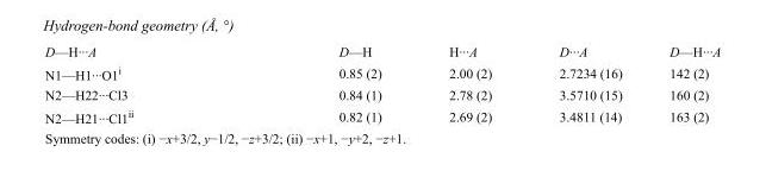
<table><tbody><tr><td>D—H···A</td><td>D—H</td><td>H···A</td><td>D···A</td><td>D—H···A</td></tr><tr><td>N1—H1···O1<sup>i</sup></td><td>0.85 (2)</td><td>2.00 (2)</td><td>2.7234 (16)</td><td>142 (2)</td></tr><tr><td>N2—H22···Cl3</td><td>0.84 (1)</td><td>2.78 (2)</td><td>3.5710 (15)</td><td>160 (2)</td></tr><tr><td>N2—H21···Cl1<sup>ii</sup></td><td>0.82 (1)</td><td>2.69 (2)</td><td>3.4811 (14)</td><td>163 (2)</td></tr></tbody></table>